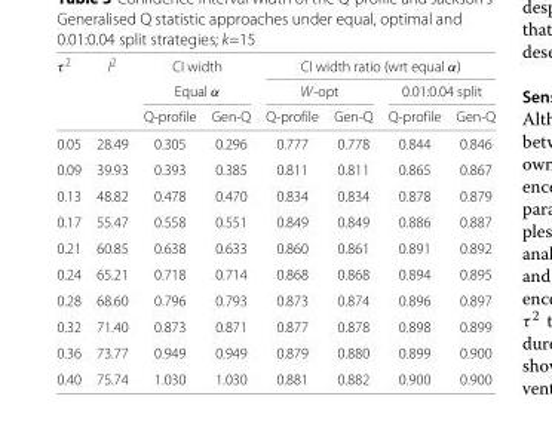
<table><thead><tr><td rowspan="3">τ <sup>2</sup></td><td rowspan="3">I<sup>2</sup></td><td rowspan="2" colspan="2">CI width Equal α</td><td colspan="4">CI width ratio (wrt equal α)</td></tr><tr><td colspan="2">W-opt</td><td colspan="2">0.01:0.04 split</td></tr><tr><td>Q-profile</td><td>Gen-Q</td><td>Q-profile</td><td>Gen-Q</td><td>Q-profile</td><td>Gen-Q</td></tr></thead><tbody><tr><td>0.05</td><td>28.49</td><td>0.305</td><td>0.296</td><td>0.777</td><td>0.778</td><td>0.844</td><td>0.846</td></tr><tr><td>0.09</td><td>39.93</td><td>0.393</td><td>0.385</td><td>0.811</td><td>0.811</td><td>0.865</td><td>0.867</td></tr><tr><td>0.13</td><td>48.82</td><td>0.478</td><td>0.470</td><td>0.834</td><td>0.834</td><td>0.878</td><td>0.879</td></tr><tr><td>0.17</td><td>55.47</td><td>0.558</td><td>0.551</td><td>0.849</td><td>0.849</td><td>0.886</td><td>0.887</td></tr><tr><td>0.21</td><td>60.85</td><td>0.638</td><td>0.633</td><td>0.860</td><td>0.861</td><td>0.891</td><td>0.892</td></tr><tr><td>0.24</td><td>65.21</td><td>0.718</td><td>0.714</td><td>0.868</td><td>0.868</td><td>0.894</td><td>0.895</td></tr><tr><td>0.28</td><td>68.60</td><td>0.796</td><td>0.793</td><td>0.873</td><td>0.874</td><td>0.896</td><td>0.897</td></tr><tr><td>0.32</td><td>71.40</td><td>0.873</td><td>0.871</td><td>0.877</td><td>0.878</td><td>0.898</td><td>0.899</td></tr><tr><td>0.36</td><td>73.77</td><td>0.949</td><td>0.949</td><td>0.879</td><td>0.880</td><td>0.899</td><td>0.900</td></tr><tr><td>0.40</td><td>75.74</td><td>1.030</td><td>1.030</td><td>0.881</td><td>0.882</td><td>0.900</td><td>0.900</td></tr></tbody></table>